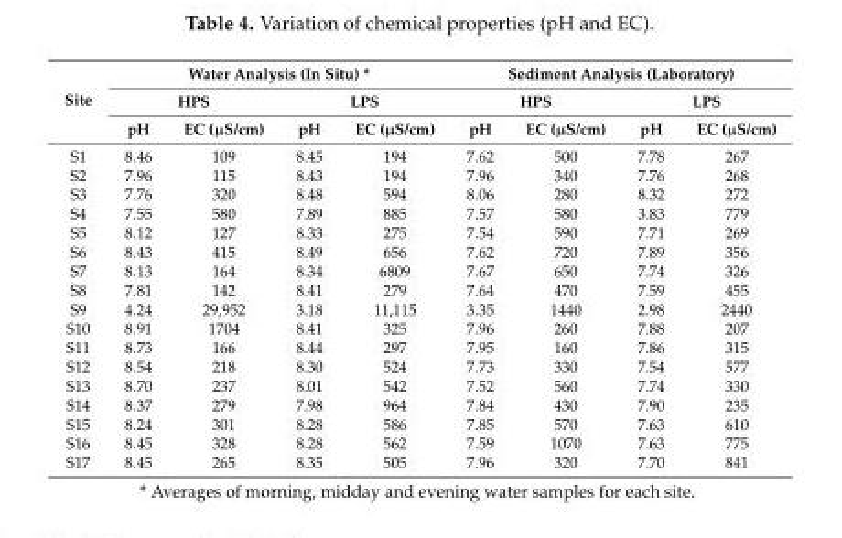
<table><thead><tr><td rowspan="3">Site</td><td colspan="4">Water Analysis (In Situ) *</td><td colspan="4">Sediment Analysis (Laboratory)</td></tr><tr><td colspan="2">HPS</td><td colspan="2">LPS</td><td colspan="2">HPS</td><td colspan="2">LPS</td></tr><tr><td>pH</td><td>EC (µS/cm)</td><td>pH</td><td>EC (µS/cm)</td><td>pH</td><td>EC (µS/cm)</td><td>pH</td><td>EC (µS/cm)</td></tr></thead><tbody><tr><td>S1</td><td>8.46</td><td>109</td><td>8.45</td><td>194</td><td>7.62</td><td>500</td><td>7.78</td><td>267</td></tr><tr><td>S2</td><td>7.96</td><td>115</td><td>8.43</td><td>194</td><td>7.96</td><td>340</td><td>7.76</td><td>268</td></tr><tr><td>S3</td><td>7.76</td><td>320</td><td>8.48</td><td>594</td><td>8.06</td><td>280</td><td>8.32</td><td>272</td></tr><tr><td>S4</td><td>7.55</td><td>580</td><td>7.89</td><td>885</td><td>7.57</td><td>580</td><td>3.83</td><td>779</td></tr><tr><td>S5</td><td>8.12</td><td>127</td><td>8.33</td><td>275</td><td>7.54</td><td>590</td><td>7.71</td><td>269</td></tr><tr><td>S6</td><td>8.43</td><td>415</td><td>8.49</td><td>656</td><td>7.62</td><td>720</td><td>7.89</td><td>356</td></tr><tr><td>S7</td><td>8.13</td><td>164</td><td>8.34</td><td>6809</td><td>7.67</td><td>650</td><td>7.74</td><td>326</td></tr><tr><td>S8</td><td>7.81</td><td>142</td><td>8.41</td><td>279</td><td>7.64</td><td>470</td><td>7.59</td><td>455</td></tr><tr><td>S9</td><td>4.24</td><td>29,952</td><td>3.18</td><td>11,115</td><td>3.35</td><td>1440</td><td>2.98</td><td>2440</td></tr><tr><td>S10</td><td>8.91</td><td>1704</td><td>8.41</td><td>325</td><td>7.96</td><td>260</td><td>7.88</td><td>207</td></tr><tr><td>S11</td><td>8.73</td><td>166</td><td>8.44</td><td>297</td><td>7.95</td><td>160</td><td>7.86</td><td>315</td></tr><tr><td>S12</td><td>8.54</td><td>218</td><td>8.30</td><td>524</td><td>7.73</td><td>330</td><td>7.54</td><td>577</td></tr><tr><td>S13</td><td>8.70</td><td>237</td><td>8.01</td><td>542</td><td>7.52</td><td>560</td><td>7.74</td><td>330</td></tr><tr><td>S14</td><td>8.37</td><td>279</td><td>7.98</td><td>964</td><td>7.84</td><td>430</td><td>7.90</td><td>235</td></tr><tr><td>S15</td><td>8.24</td><td>301</td><td>8.28</td><td>586</td><td>7.85</td><td>570</td><td>7.63</td><td>610</td></tr><tr><td>S16</td><td>8.45</td><td>328</td><td>8.28</td><td>562</td><td>7.59</td><td>1070</td><td>7.63</td><td>775</td></tr><tr><td>S17</td><td>8.45</td><td>265</td><td>8.35</td><td>505</td><td>7.96</td><td>320</td><td>7.70</td><td>841</td></tr></tbody></table>